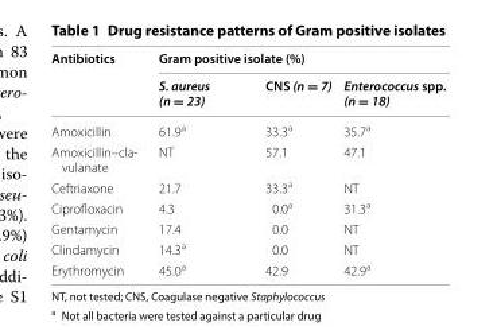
<table><thead><tr><td rowspan="2">Antibiotics</td><td colspan="3">Gram positive isolate (%)</td></tr><tr><td>S. aureus (n = 23)</td><td>CNS (n = 7)</td><td>Enterococcus spp. (n = 18)</td></tr></thead><tbody><tr><td>Amoxicillin</td><td>61.9<sup>a</sup></td><td>33.3<sup>a</sup></td><td>35.7<sup>a</sup></td></tr><tr><td>Amoxicillin–cla- vulanate</td><td>NT</td><td>57.1</td><td>47.1</td></tr><tr><td>Ceftriaxone</td><td>21.7</td><td>33.3<sup>a</sup></td><td>NT</td></tr><tr><td>Ciprofloxacin</td><td>4.3</td><td>0.0<sup>a</sup></td><td>31.3<sup>a</sup></td></tr><tr><td>Gentamycin</td><td>17.4</td><td>0.0</td><td>NT</td></tr><tr><td>Clindamycin</td><td>14.3<sup>a</sup></td><td>0.0</td><td>NT</td></tr><tr><td>Erythromycin</td><td>45.0<sup>a</sup></td><td>42.9</td><td>42.9<sup>a</sup></td></tr></tbody></table>